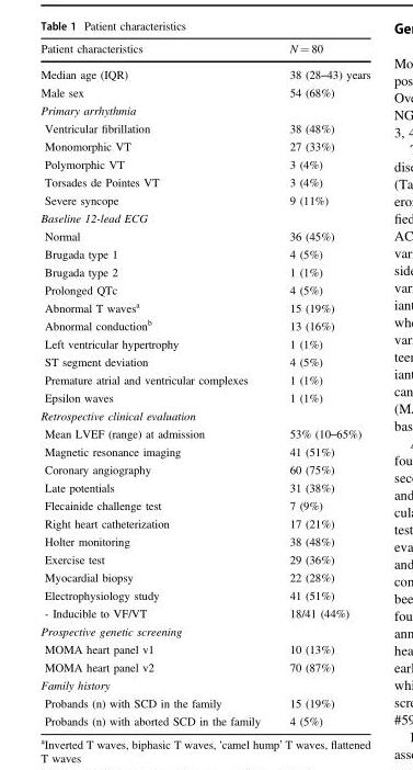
<table><thead><tr><td>Patient characteristics</td><td>N = 80</td></tr></thead><tbody><tr><td>Median age (IQR)</td><td>38 (28–43) years</td></tr><tr><td>Male sex</td><td>54 (68%)</td></tr><tr><td colspan="2">Primary arrhythmia</td></tr><tr><td>Ventricular fibrillation</td><td>38 (48%)</td></tr><tr><td>Monomorphic VT</td><td>27 (33%)</td></tr><tr><td>Polymorphic VT</td><td>3 (4%)</td></tr><tr><td>Torsades de Pointes VT</td><td>3 (4%)</td></tr><tr><td>Severe syncope</td><td>9 (11%)</td></tr><tr><td colspan="2">Baseline 12-lead ECG</td></tr><tr><td>Normal</td><td>36 (45%)</td></tr><tr><td>Brugada type 1</td><td>4 (5%)</td></tr><tr><td>Brugada type 2</td><td>1 (1%)</td></tr><tr><td>Prolonged QTc</td><td>4 (5%)</td></tr><tr><td>Abnormal T waves<sup>a</sup></td><td>15 (19%)</td></tr><tr><td>Abnormal conduction<sup>b</sup></td><td>13 (16%)</td></tr><tr><td>Left ventricular hypertrophy</td><td>1 (1%)</td></tr><tr><td>ST segment deviation</td><td>4 (5%)</td></tr><tr><td>Premature atrial and ventricular complexes</td><td>1 (1%)</td></tr><tr><td>Epsilon waves</td><td>1 (1%)</td></tr><tr><td colspan="2">Retrospective clinical evaluation</td></tr><tr><td>Mean LVEF (range) at admission</td><td>53% (10–65%)</td></tr><tr><td>Magnetic resonance imaging</td><td>41 (51%)</td></tr><tr><td>Coronary angiography</td><td>60 (75%)</td></tr><tr><td>Late potentials</td><td>31 (38%)</td></tr><tr><td>Flecainide challenge test</td><td>7 (9%)</td></tr><tr><td>Right heart catheterization</td><td>17 (21%)</td></tr><tr><td>Holter monitoring</td><td>38 (48%)</td></tr><tr><td>Exercise test</td><td>29 (36%)</td></tr><tr><td>Myocardial biopsy</td><td>22 (28%)</td></tr><tr><td>Electrophysiology study</td><td>41 (51%)</td></tr><tr><td>- Inducible to VF/VT</td><td>18/41 (44%)</td></tr><tr><td colspan="2">Prospective genetic screening</td></tr><tr><td>MOMA heart panel v1</td><td>10 (13%)</td></tr><tr><td>MOMA heart panel v2</td><td>70 (87%)</td></tr><tr><td colspan="2">Family history</td></tr><tr><td>Probands (n) with SCD in the family</td><td>15 (19%)</td></tr><tr><td>Probands (n) with aborted SCD in the family</td><td>4 (5%)</td></tr></tbody></table>